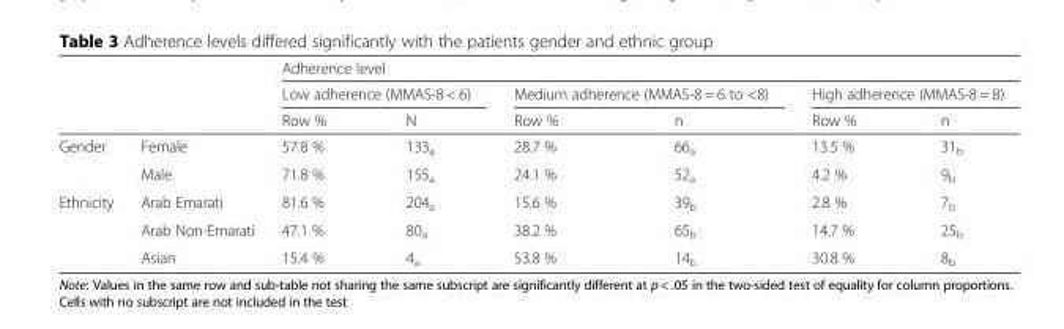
<table><thead><tr><td rowspan="3"></td><td rowspan="3"></td><td colspan="6">Adherence level</td></tr><tr><td colspan="2">Low adherence (MMAS-8 &lt; 6)</td><td colspan="2">Medium adherence (MMAS-8 = 6 to &lt;8)</td><td colspan="2">High adherence (MMAS-8 = 8)</td></tr><tr><td>Row %</td><td>N</td><td>Row %</td><td>n</td><td>Row %</td><td>n</td></tr></thead><tbody><tr><td rowspan="2">Gender</td><td>Female</td><td>57.8 %</td><td>133<sub>a</sub></td><td>28.7 %</td><td>66<sub>a</sub></td><td>13.5 %</td><td>31<sub>b</sub></td></tr><tr><td>Male</td><td>71.8 %</td><td>155<sub>a</sub></td><td>24.1 %</td><td>52<sub>a</sub></td><td>4.2 %</td><td>9<sub>b</sub></td></tr><tr><td rowspan="3">Ethnicity</td><td>Arab Emarati</td><td>81.6 %</td><td>204<sub>a</sub></td><td>15.6 %</td><td>39<sub>b</sub></td><td>2.8 %</td><td>7<sub>b</sub></td></tr><tr><td>Arab Non-Emarati</td><td>47.1 %</td><td>80<sub>a</sub></td><td>38.2 %</td><td>65<sub>b</sub></td><td>14.7 %</td><td>25<sub>b</sub></td></tr><tr><td>Asian</td><td>15.4 %</td><td>4<sub>a</sub></td><td>53.8 %</td><td>14<sub>b</sub></td><td>30.8 %</td><td>8<sub>b</sub></td></tr></tbody></table>